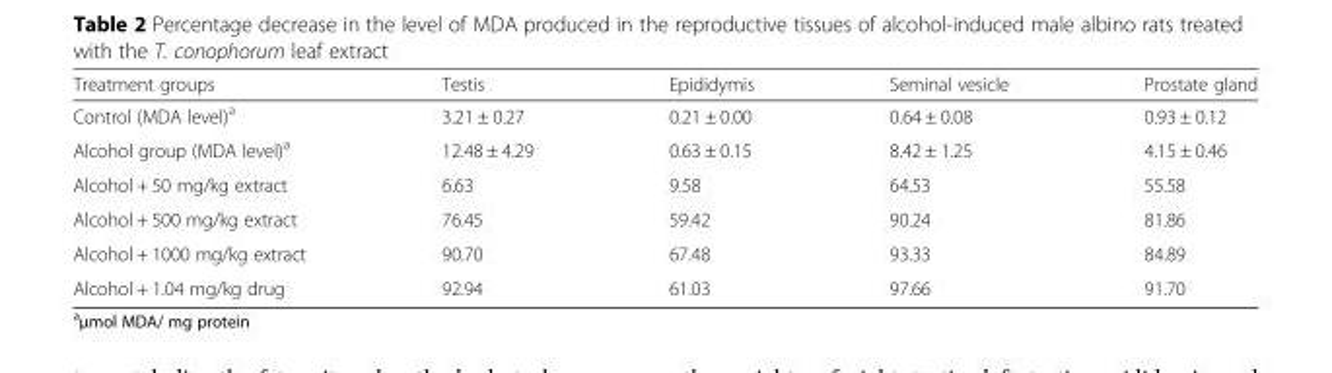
<table><thead><tr><td>Treatment groups</td><td>Testis</td><td>Epididymis</td><td>Seminal vesicle</td><td>Prostate gland</td></tr></thead><tbody><tr><td>Control (MDA level)<sup>a</sup></td><td>3.21 ± 0.27</td><td>0.21 ± 0.00</td><td>0.64 ± 0.08</td><td>0.93 ± 0.12</td></tr><tr><td>Alcohol group (MDA level)<sup>a</sup></td><td>12.48 ± 4.29</td><td>0.63 ± 0.15</td><td>8.42 ± 1.25</td><td>4.15 ± 0.46</td></tr><tr><td>Alcohol + 50 mg/kg extract</td><td>6.63</td><td>9.58</td><td>64.53</td><td>55.58</td></tr><tr><td>Alcohol + 500 mg/kg extract</td><td>76.45</td><td>59.42</td><td>90.24</td><td>81.86</td></tr><tr><td>Alcohol + 1000 mg/kg extract</td><td>90.70</td><td>67.48</td><td>93.33</td><td>84.89</td></tr><tr><td>Alcohol + 1.04 mg/kg drug</td><td>92.94</td><td>61.03</td><td>97.66</td><td>91.70</td></tr></tbody></table>